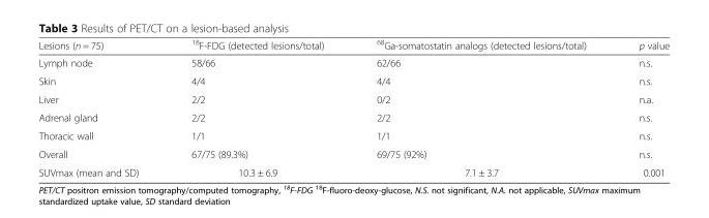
<table><thead><tr><td>Lesions (n = 75)</td><td><sup>18</sup>F-FDG (detected lesions/total)</td><td><sup>68</sup>Ga-somatostatin analogs (detected lesions/total)</td><td>p value</td></tr></thead><tbody><tr><td>Lymph node</td><td>58/66</td><td>62/66</td><td>n.s.</td></tr><tr><td>Skin</td><td>4/4</td><td>4/4</td><td>n.s.</td></tr><tr><td>Liver</td><td>2/2</td><td>0/2</td><td>n.a.</td></tr><tr><td>Adrenal gland</td><td>2/2</td><td>2/2</td><td>n.s.</td></tr><tr><td>Thoracic wall</td><td>1/1</td><td>1/1</td><td>n.s.</td></tr><tr><td>Overall</td><td>67/75 (89.3%)</td><td>69/75 (92%)</td><td>n.s.</td></tr><tr><td>SUVmax (mean and SD)</td><td>10.3 ± 6.9</td><td>7.1 ± 3.7</td><td>0.001</td></tr></tbody></table>